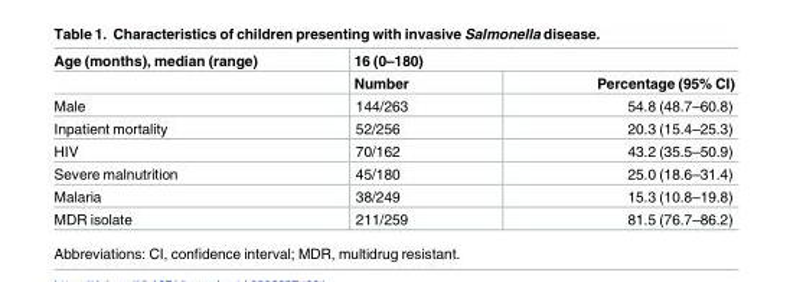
<table><thead><tr><td rowspan="2">Age (months), median (range)</td><td colspan="2">16 (0–180)</td></tr><tr><td>Number</td><td>Percentage (95% CI)</td></tr></thead><tbody><tr><td>Male</td><td>144/263</td><td>54.8 (48.7–60.8)</td></tr><tr><td>Inpatient mortality</td><td>52/256</td><td>20.3 (15.4–25.3)</td></tr><tr><td>HIV</td><td>70/162</td><td>43.2 (35.5–50.9)</td></tr><tr><td>Severe malnutrition</td><td>45/180</td><td>25.0 (18.6–31.4)</td></tr><tr><td>Malaria</td><td>38/249</td><td>15.3 (10.8–19.8)</td></tr><tr><td>MDR isolate</td><td>211/259</td><td>81.5 (76.7–86.2)</td></tr></tbody></table>